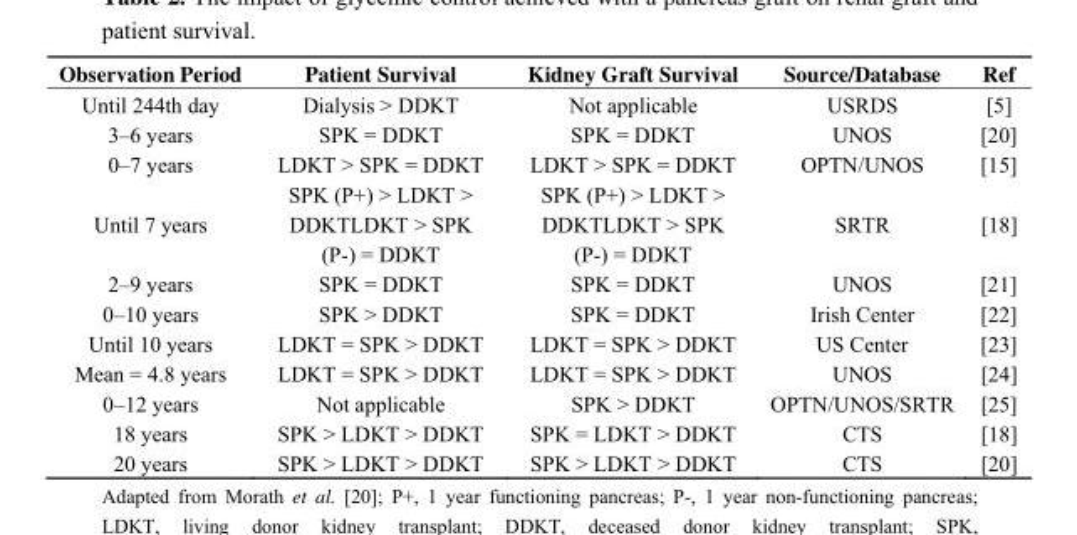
<table><thead><tr><td>Observation Period</td><td>Patient Survival</td><td>Kidney Graft Survival</td><td>Source/Database</td><td>Ref</td></tr></thead><tbody><tr><td>Until 244th day</td><td>Dialysis &gt; DDKT</td><td>Not applicable</td><td>USRDS</td><td>[5]</td></tr><tr><td>3–6 years</td><td>SPK = DDKT</td><td>SPK = DDKT</td><td>UNOS</td><td>[20]</td></tr><tr><td>0–7 years</td><td>LDKT &gt; SPK = DDKT</td><td>LDKT &gt; SPK = DDKT</td><td>OPTN/UNOS</td><td>[15]</td></tr><tr><td rowspan="2">Until 7 years</td><td>SPK (P+) &gt; LDKT &gt; DDKTLDKT &gt; SPK</td><td>SPK (P+) &gt; LDKT &gt; DDKTLDKT &gt; SPK</td><td rowspan="2">SRTR</td><td rowspan="2">[18]</td></tr><tr><td>(P-) = DDKT</td><td>(P-) = DDKT</td></tr><tr><td>2–9 years</td><td>SPK = DDKT</td><td>SPK = DDKT</td><td>UNOS</td><td>[21]</td></tr><tr><td>0–10 years</td><td>SPK &gt; DDKT</td><td>SPK = DDKT</td><td>Irish Center</td><td>[22]</td></tr><tr><td>Until 10 years</td><td>LDKT = SPK &gt; DDKT</td><td>LDKT = SPK &gt; DDKT</td><td>US Center</td><td>[23]</td></tr><tr><td>Mean = 4.8 years</td><td>LDKT = SPK &gt; DDKT</td><td>LDKT = SPK &gt; DDKT</td><td>UNOS</td><td>[24]</td></tr><tr><td>0–12 years</td><td>Not applicable</td><td>SPK &gt; DDKT</td><td>OPTN/UNOS/SRTR</td><td>[25]</td></tr><tr><td>18 years</td><td>SPK &gt; LDKT &gt; DDKT</td><td>SPK = LDKT &gt; DDKT</td><td>CTS</td><td>[18]</td></tr><tr><td>20 years</td><td>SPK &gt; LDKT &gt; DDKT</td><td>SPK &gt; LDKT &gt; DDKT</td><td>CTS</td><td>[20]</td></tr></tbody></table>